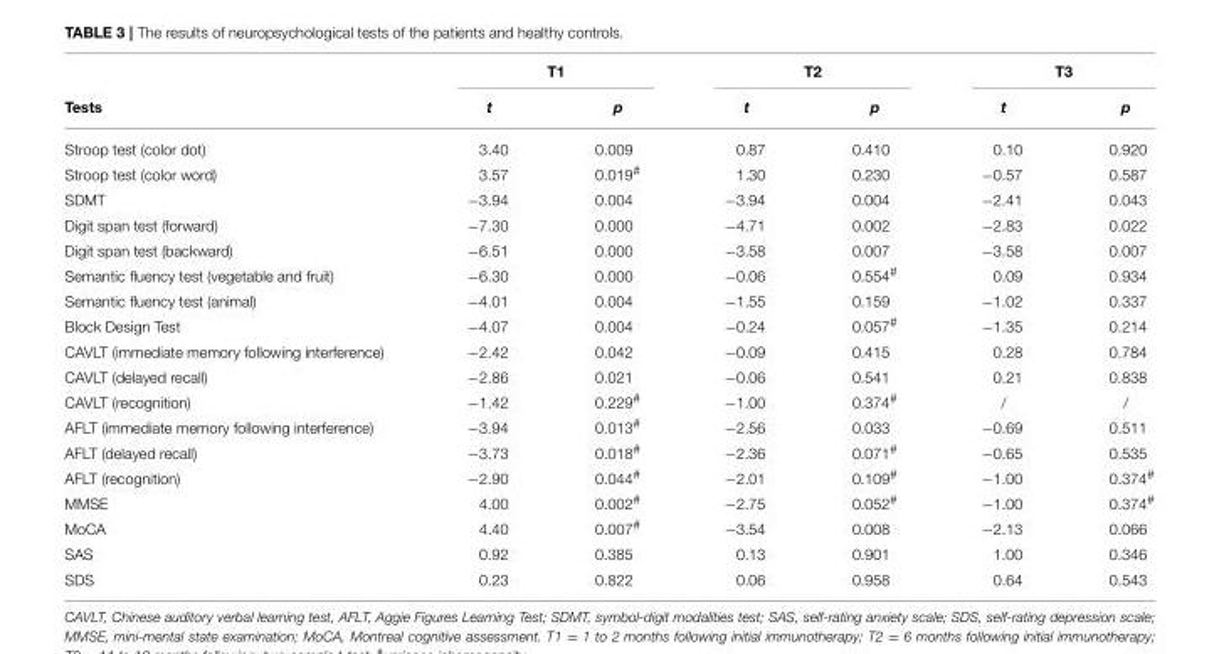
<table><thead><tr><td rowspan="2">Tests</td><td colspan="2">T1</td><td colspan="2">T2</td><td colspan="2">T3</td></tr><tr><td>t</td><td>p</td><td>t</td><td>p</td><td>t</td><td>p</td></tr></thead><tbody><tr><td>Stroop test (color dot)</td><td>3.40</td><td>0.009</td><td>0.87</td><td>0.410</td><td>0.10</td><td>0.920</td></tr><tr><td>Stroop test (color word)</td><td>3.57</td><td>0.019<sup>#</sup></td><td>1.30</td><td>0.230</td><td>−0.57</td><td>0.587</td></tr><tr><td>SDMT</td><td>−3.94</td><td>0.004</td><td>−3.94</td><td>0.004</td><td>−2.41</td><td>0.043</td></tr><tr><td>Digit span test (forward)</td><td>−7.30</td><td>0.000</td><td>−4.71</td><td>0.002</td><td>−2.83</td><td>0.022</td></tr><tr><td>Digit span test (backward)</td><td>−6.51</td><td>0.000</td><td>−3.58</td><td>0.007</td><td>−3.58</td><td>0.007</td></tr><tr><td>Semantic fluency test (vegetable and fruit)</td><td>−6.30</td><td>0.000</td><td>−0.06</td><td>0.554<sup>#</sup></td><td>0.09</td><td>0.934</td></tr><tr><td>Semantic fluency test (animal)</td><td>−4.01</td><td>0.004</td><td>−1.55</td><td>0.159</td><td>−1.02</td><td>0.337</td></tr><tr><td>Block Design Test</td><td>−4.07</td><td>0.004</td><td>−0.24</td><td>0.057<sup>#</sup></td><td>−1.35</td><td>0.214</td></tr><tr><td>CAVLT (immediate memory following interference)</td><td>−2.42</td><td>0.042</td><td>−0.09</td><td>0.415</td><td>0.28</td><td>0.784</td></tr><tr><td>CAVLT (delayed recall)</td><td>−2.86</td><td>0.021</td><td>−0.06</td><td>0.541</td><td>0.21</td><td>0.838</td></tr><tr><td>CAVLT (recognition)</td><td>−1.42</td><td>0.229<sup>#</sup></td><td>−1.00</td><td>0.374<sup>#</sup></td><td>/</td><td>/</td></tr><tr><td>AFLT (immediate memory following interference)</td><td>−3.94</td><td>0.013<sup>#</sup></td><td>−2.56</td><td>0.033</td><td>−0.69</td><td>0.511</td></tr><tr><td>AFLT (delayed recall)</td><td>−3.73</td><td>0.018<sup>#</sup></td><td>−2.36</td><td>0.071<sup>#</sup></td><td>−0.65</td><td>0.535</td></tr><tr><td>AFLT (recognition)</td><td>−2.90</td><td>0.044<sup>#</sup></td><td>−2.01</td><td>0.109<sup>#</sup></td><td>−1.00</td><td>0.374<sup>#</sup></td></tr><tr><td>MMSE</td><td>4.00</td><td>0.002<sup>#</sup></td><td>−2.75</td><td>0.052<sup>#</sup></td><td>−1.00</td><td>0.374<sup>#</sup></td></tr><tr><td>MoCA</td><td>4.40</td><td>0.007<sup>#</sup></td><td>−3.54</td><td>0.008</td><td>−2.13</td><td>0.066</td></tr><tr><td>SAS</td><td>0.92</td><td>0.385</td><td>0.13</td><td>0.901</td><td>1.00</td><td>0.346</td></tr><tr><td>SDS</td><td>0.23</td><td>0.822</td><td>0.06</td><td>0.958</td><td>0.64</td><td>0.543</td></tr></tbody></table>